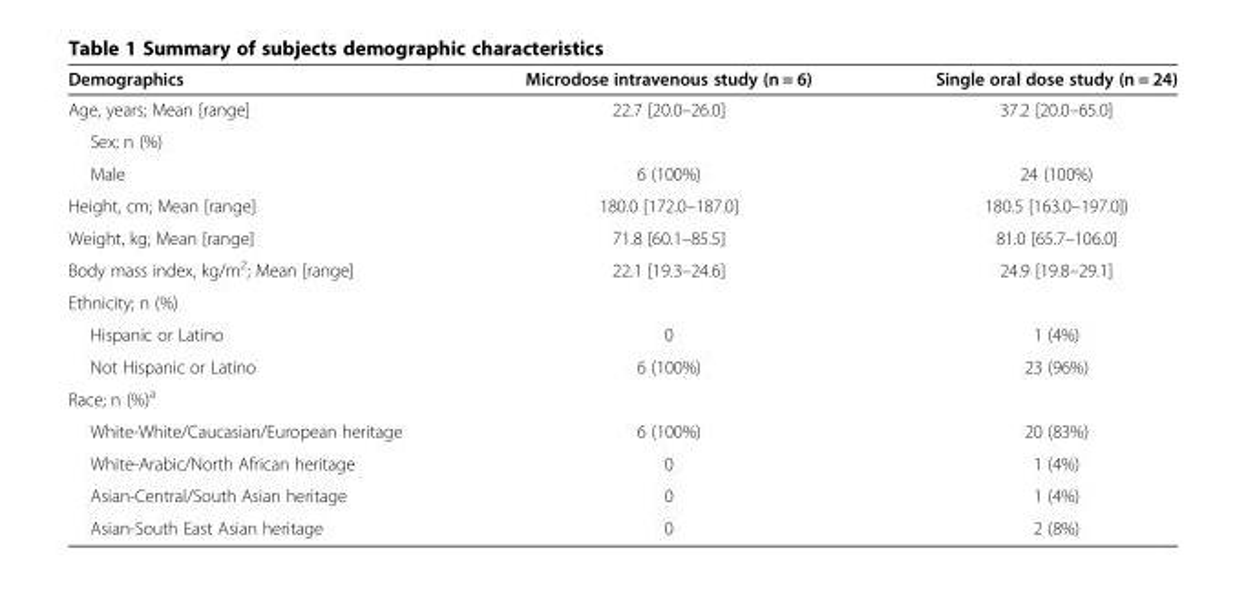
<table><thead><tr><td>Demographics</td><td>Microdose intravenous study (n = 6)</td><td>Single oral dose study (n = 24)</td></tr></thead><tbody><tr><td>Age, years; Mean [range]</td><td>22.7 [20.0–26.0]</td><td>37.2 [20.0–65.0]</td></tr><tr><td colspan="3">Sex; n (%)</td></tr><tr><td>Male</td><td>6 (100%)</td><td>24 (100%)</td></tr><tr><td>Height, cm; Mean [range]</td><td>180.0 [172.0–187.0]</td><td>180.5 [163.0–197.0])</td></tr><tr><td>Weight, kg; Mean [range]</td><td>71.8 [60.1–85.5]</td><td>81.0 [65.7–106.0]</td></tr><tr><td>Body mass index, kg/m<sup>2</sup>; Mean [range]</td><td>22.1 [19.3–24.6]</td><td>24.9 [19.8–29.1]</td></tr><tr><td colspan="3">Ethnicity; n (%)</td></tr><tr><td>Hispanic or Latino</td><td>0</td><td>1 (4%)</td></tr><tr><td>Not Hispanic or Latino</td><td>6 (100%)</td><td>23 (96%)</td></tr><tr><td colspan="3">Race; n (%)<sup>a</sup></td></tr><tr><td>White-White/Caucasian/European heritage</td><td>6 (100%)</td><td>20 (83%)</td></tr><tr><td>White-Arabic/North African heritage</td><td>0</td><td>1 (4%)</td></tr><tr><td>Asian-Central/South Asian heritage</td><td>0</td><td>1 (4%)</td></tr><tr><td>Asian-South East Asian heritage</td><td>0</td><td>2 (8%)</td></tr></tbody></table>